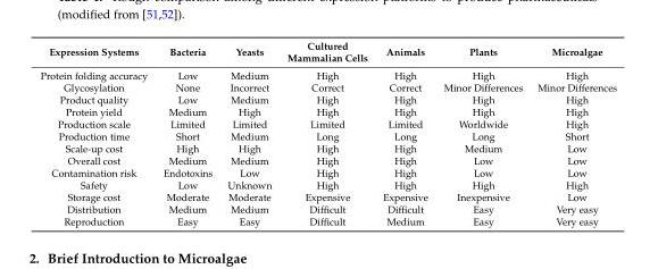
<table><thead><tr><td>Expression Systems</td><td>Bacteria</td><td>Yeasts</td><td>Cultured Mammalian Cells</td><td>Animals</td><td>Plants</td><td>Microalgae</td></tr></thead><tbody><tr><td>Protein folding accuracy</td><td>Low</td><td>Medium</td><td>High</td><td>High</td><td>High</td><td>High</td></tr><tr><td>Glycosylation</td><td>None</td><td>Incorrect</td><td>Correct</td><td>Correct</td><td>Minor Differences</td><td>Minor Differences</td></tr><tr><td>Product quality</td><td>Low</td><td>Medium</td><td>High</td><td>High</td><td>High</td><td>High</td></tr><tr><td>Protein yield</td><td>Medium</td><td>High</td><td>High</td><td>High</td><td>High</td><td>High</td></tr><tr><td>Production scale</td><td>Limited</td><td>Limited</td><td>Limited</td><td>Limited</td><td>Worldwide</td><td>High</td></tr><tr><td>Production time</td><td>Short</td><td>Medium</td><td>Long</td><td>Long</td><td>Long</td><td>Short</td></tr><tr><td>Scale-up cost</td><td>High</td><td>High</td><td>High</td><td>High</td><td>Medium</td><td>Low</td></tr><tr><td>Overall cost</td><td>Medium</td><td>Medium</td><td>High</td><td>High</td><td>Low</td><td>Low</td></tr><tr><td>Contamination risk</td><td>Endotoxins</td><td>Low</td><td>High</td><td>High</td><td>Low</td><td>Low</td></tr><tr><td>Safety</td><td>Low</td><td>Unknown</td><td>High</td><td>High</td><td>High</td><td>High</td></tr><tr><td>Storage cost</td><td>Moderate</td><td>Moderate</td><td>Expensive</td><td>Expensive</td><td>Inexpensive</td><td>Low</td></tr><tr><td>Distribution</td><td>Medium</td><td>Medium</td><td>Difficult</td><td>Difficult</td><td>Easy</td><td>Very easy</td></tr><tr><td>Reproduction</td><td>Easy</td><td>Easy</td><td>Difficult</td><td>Medium</td><td>Easy</td><td>Very easy</td></tr></tbody></table>